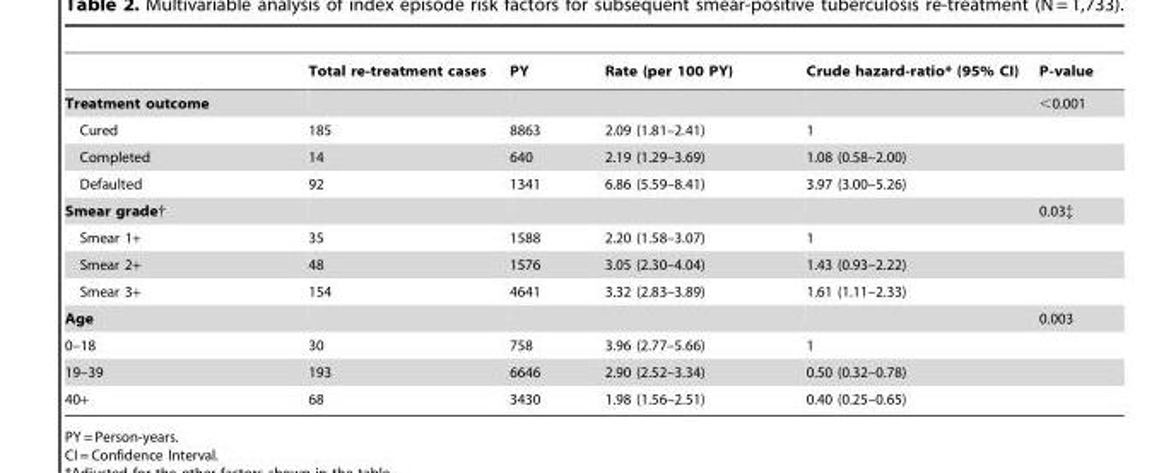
<table><thead><tr><td></td><td>Total re-treatment cases</td><td>PY</td><td>Rate (per 100 PY)</td><td>Crude hazard-ratio* (95% CI)</td><td>P-value</td></tr></thead><tbody><tr><td>Treatment outcome</td><td></td><td></td><td></td><td></td><td>&lt;0.001</td></tr><tr><td>Cured</td><td>185</td><td>8863</td><td>2.09 (1.81–2.41)</td><td>1</td><td></td></tr><tr><td>Completed</td><td>14</td><td>640</td><td>2.19 (1.29–3.69)</td><td>1.08 (0.58–2.00)</td><td></td></tr><tr><td>Defaulted</td><td>92</td><td>1341</td><td>6.86 (5.59–8.41)</td><td>3.97 (3.00–5.26)</td><td></td></tr><tr><td>Smear grade†</td><td></td><td></td><td></td><td></td><td>0.03‡</td></tr><tr><td>Smear 1+</td><td>35</td><td>1588</td><td>2.20 (1.58–3.07)</td><td>1</td><td></td></tr><tr><td>Smear 2+</td><td>48</td><td>1576</td><td>3.05 (2.30–4.04)</td><td>1.43 (0.93–2.22)</td><td></td></tr><tr><td>Smear 3+</td><td>154</td><td>4641</td><td>3.32 (2.83–3.89)</td><td>1.61 (1.11–2.33)</td><td></td></tr><tr><td>Age</td><td></td><td></td><td></td><td></td><td>0.003</td></tr><tr><td>0–18</td><td>30</td><td>758</td><td>3.96 (2.77–5.66)</td><td>1</td><td></td></tr><tr><td>19–39</td><td>193</td><td>6646</td><td>2.90 (2.52–3.34)</td><td>0.50 (0.32–0.78)</td><td></td></tr><tr><td>40+</td><td>68</td><td>3430</td><td>1.98 (1.56–2.51)</td><td>0.40 (0.25–0.65)</td><td></td></tr></tbody></table>